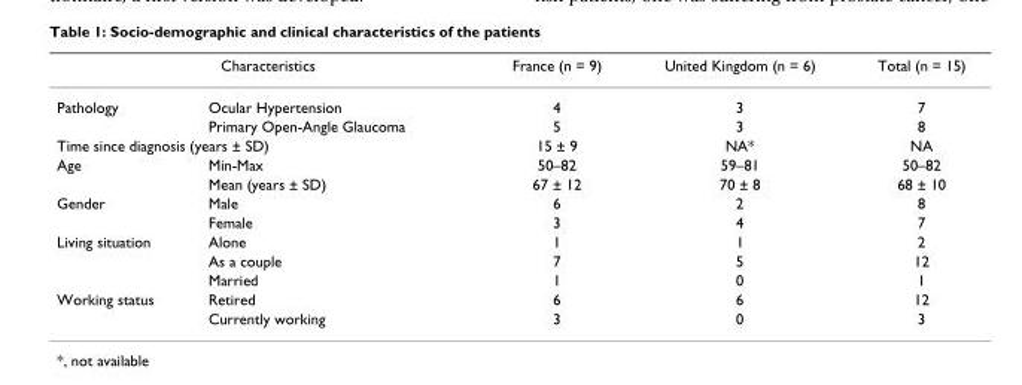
<table><thead><tr><td colspan="2">Characteristics</td><td rowspan="2">France (n = 9) 4</td><td rowspan="2">United Kingdom (n = 6) 3</td><td rowspan="2">Total (n = 15) 7</td></tr><tr><td>Pathology</td><td>Ocular Hypertension</td></tr></thead><tbody><tr><td></td><td>Primary Open-Angle Glaucoma</td><td>5</td><td>3</td><td>8</td></tr><tr><td colspan="2">Time since diagnosis (years ± SD)</td><td>15 ± 9</td><td>NA*</td><td>NA</td></tr><tr><td rowspan="2">Age</td><td>Min-Max</td><td>50–82</td><td>59–81</td><td>50–82</td></tr><tr><td>Mean (years ± SD)</td><td>67 ± 12</td><td>70 ± 8</td><td>68 ± 10</td></tr><tr><td rowspan="2">Gender</td><td>Male</td><td>6</td><td>2</td><td>8</td></tr><tr><td>Female</td><td>3</td><td>4</td><td>7</td></tr><tr><td rowspan="3">Living situation</td><td>Alone</td><td>1</td><td>1</td><td>2</td></tr><tr><td>As a couple</td><td>7</td><td>5</td><td>12</td></tr><tr><td>Married</td><td>1</td><td>0</td><td>1</td></tr><tr><td rowspan="2">Working status</td><td>Retired</td><td>6</td><td>6</td><td>12</td></tr><tr><td>Currently working</td><td>3</td><td>0</td><td>3</td></tr></tbody></table>